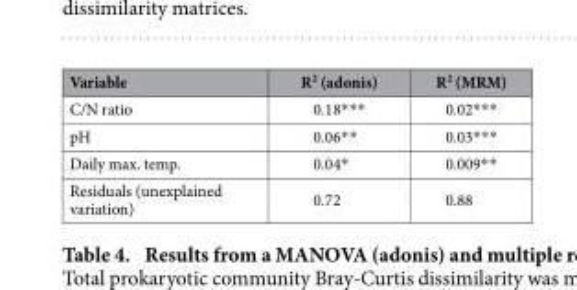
<table><thead><tr><td>Variable</td><td>R<sup>2</sup> (adonis)</td><td>R<sup>2</sup> (MRM)</td></tr></thead><tbody><tr><td>C/N ratio</td><td>0.18* * *</td><td>0.02* * *</td></tr><tr><td>pH</td><td>0.06* *</td><td>0.03* * *</td></tr><tr><td>Daily max. temp.</td><td>0.04*</td><td>0.009* *</td></tr><tr><td>Residuals (unexplained variation)</td><td>0.72</td><td>0.88</td></tr></tbody></table>